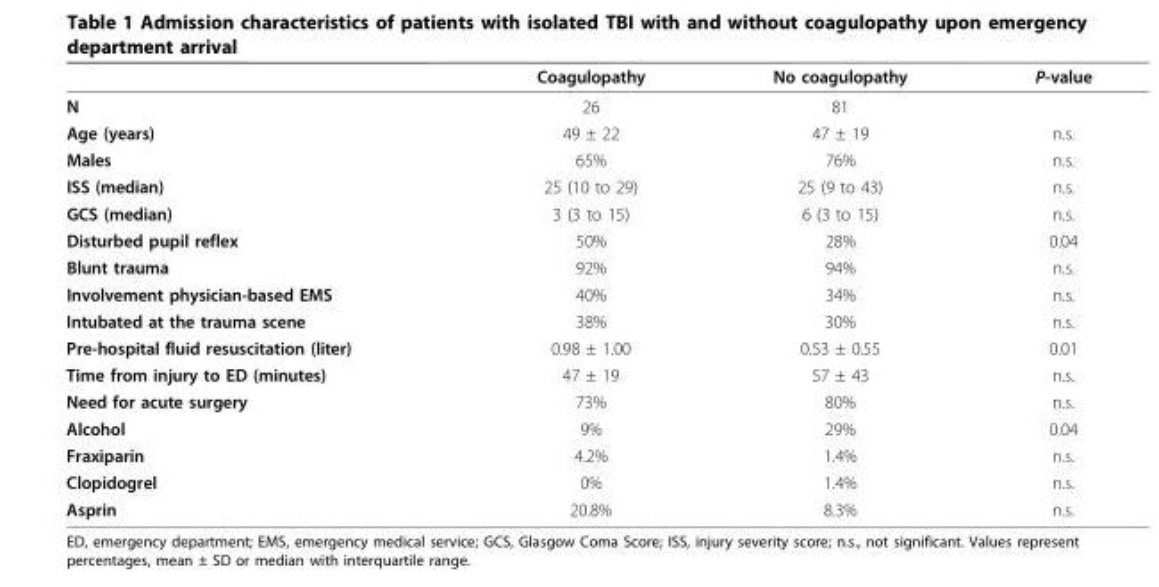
<table><thead><tr><td></td><td>Coagulopathy</td><td>No coagulopathy</td><td>P-value</td></tr></thead><tbody><tr><td>N</td><td>26</td><td>81</td><td></td></tr><tr><td>Age (years)</td><td>49 ± 22</td><td>47 ± 19</td><td>n.s.</td></tr><tr><td>Males</td><td>65%</td><td>76%</td><td>n.s.</td></tr><tr><td>ISS (median)</td><td>25 (10 to 29)</td><td>25 (9 to 43)</td><td>n.s.</td></tr><tr><td>GCS (median)</td><td>3 (3 to 15)</td><td>6 (3 to 15)</td><td>n.s.</td></tr><tr><td>Disturbed pupil reflex</td><td>50%</td><td>28%</td><td>0.04</td></tr><tr><td>Blunt trauma</td><td>92%</td><td>94%</td><td>n.s.</td></tr><tr><td>Involvement physician-based EMS</td><td>40%</td><td>34%</td><td>n.s.</td></tr><tr><td>Intubated at the trauma scene</td><td>38%</td><td>30%</td><td>n.s.</td></tr><tr><td>Pre-hospital fluid resuscitation (liter)</td><td>0.98 ± 1.00</td><td>0.53 ± 0.55</td><td>0.01</td></tr><tr><td>Time from injury to ED (minutes)</td><td>47 ± 19</td><td>57 ± 43</td><td>n.s.</td></tr><tr><td>Need for acute surgery</td><td>73%</td><td>80%</td><td>n.s.</td></tr><tr><td>Alcohol</td><td>9%</td><td>29%</td><td>0.04</td></tr><tr><td>Fraxiparin</td><td>4.2%</td><td>1.4%</td><td>n.s.</td></tr><tr><td>Clopidogrel</td><td>0%</td><td>1.4%</td><td>n.s.</td></tr><tr><td>Asprin</td><td>20.8%</td><td>8.3%</td><td>n.s.</td></tr></tbody></table>